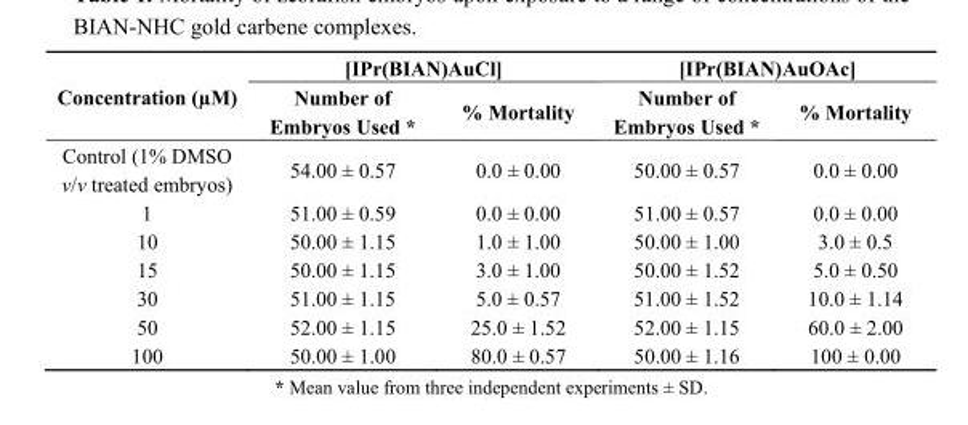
<table><thead><tr><td rowspan="2">Concentration (µM)</td><td colspan="2">[IPr(BIAN)AuCl]</td><td colspan="2">[IPr(BIAN)AuOAc]</td></tr><tr><td>Number of Embryos Used *</td><td>% Mortality</td><td>Number of Embryos Used *</td><td>% Mortality</td></tr></thead><tbody><tr><td>Control (1% DMSO v/v treated embryos)</td><td>54.00 ± 0.57</td><td>0.0 ± 0.00</td><td>50.00 ± 0.57</td><td>0.0 ± 0.00</td></tr><tr><td>1</td><td>51.00 ± 0.59</td><td>0.0 ± 0.00</td><td>51.00 ± 0.57</td><td>0.0 ± 0.00</td></tr><tr><td>10</td><td>50.00 ± 1.15</td><td>1.0 ± 1.00</td><td>50.00 ± 1.00</td><td>3.0 ± 0.5</td></tr><tr><td>15</td><td>50.00 ± 1.15</td><td>3.0 ± 1.00</td><td>50.00 ± 1.52</td><td>5.0 ± 0.50</td></tr><tr><td>30</td><td>51.00 ± 1.15</td><td>5.0 ± 0.57</td><td>51.00 ± 1.52</td><td>10.0 ± 1.14</td></tr><tr><td>50</td><td>52.00 ± 1.15</td><td>25.0 ± 1.52</td><td>52.00 ± 1.15</td><td>60.0 ± 2.00</td></tr><tr><td>100</td><td>50.00 ± 1.00</td><td>80.0 ± 0.57</td><td>50.00 ± 1.16</td><td>100 ± 0.00</td></tr></tbody></table>